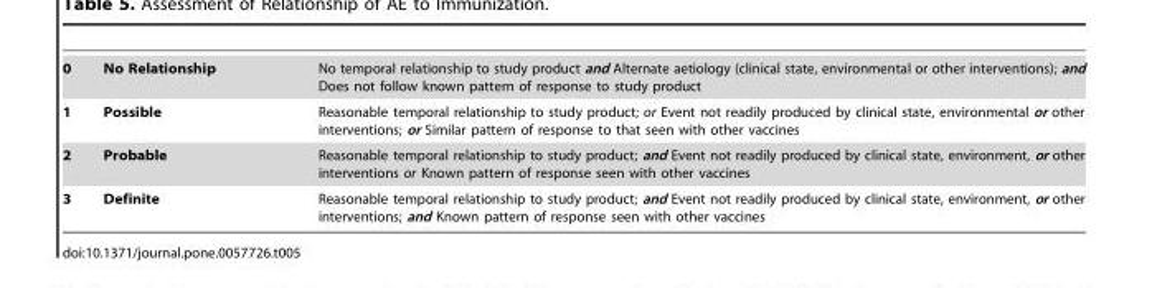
<table><tbody><tr><td>0</td><td>No Relationship</td><td>No temporal relationship to study product and Alternate aetiology (clinical state, environmental or other interventions); and Does not follow known pattern of response to study product</td></tr><tr><td>1</td><td>Possible</td><td>Reasonable temporal relationship to study product; or Event not readily produced by clinical state, environmental or other interventions; or Similar pattern of response to that seen with other vaccines</td></tr><tr><td>2</td><td>Probable</td><td>Reasonable temporal relationship to study product; and Event not readily produced by clinical state, environment, or other interventions or Known pattern of response seen with other vaccines</td></tr><tr><td>3</td><td>Definite</td><td>Reasonable temporal relationship to study product; and Event not readily produced by clinical state, environment, or other interventions; and Known pattern of response seen with other vaccines</td></tr></tbody></table>